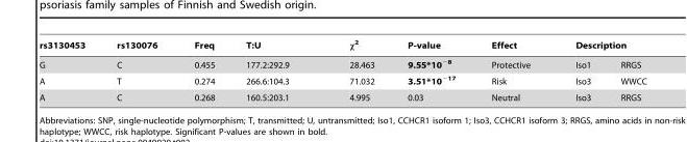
<table><thead><tr><td rowspan="2">rs3130453 G</td><td rowspan="2">rs130076 C</td><td rowspan="2">Freq 0.455</td><td rowspan="2">T:U 177.2:292.9</td><td rowspan="2">χ<sup>2</sup> 28.463</td><td rowspan="2">P-value 9.55*10<sup>−8</sup></td><td rowspan="2">Effect Protective</td><td colspan="2">Description</td></tr><tr><td>Iso1</td><td>RRGS</td></tr></thead><tbody><tr><td>A</td><td>T</td><td>0.274</td><td>266.6:104.3</td><td>71.032</td><td>3.51*10<sup>−17</sup></td><td>Risk</td><td>Iso3</td><td>WWCC</td></tr><tr><td>A</td><td>C</td><td>0.268</td><td>160.5:203.1</td><td>4.995</td><td>0.03</td><td>Neutral</td><td>Iso3</td><td>RRGS</td></tr></tbody></table>